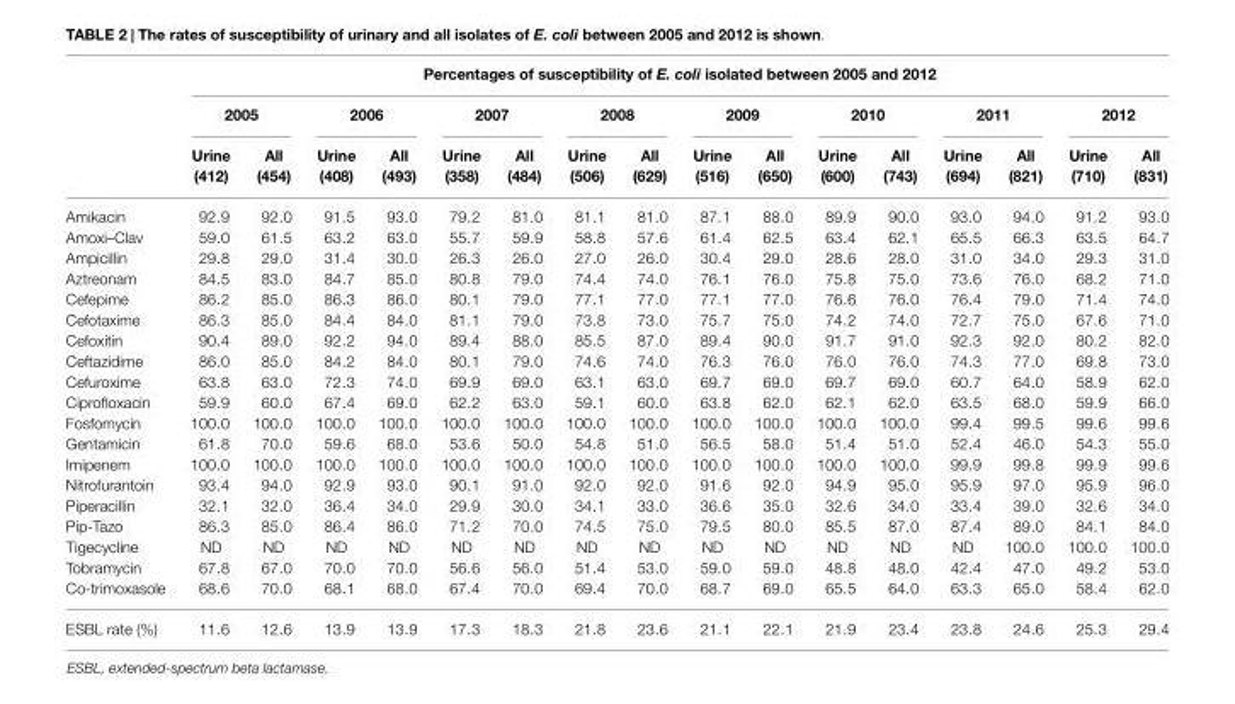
<table><thead><tr><td rowspan="3"></td><td colspan="16">Percentages of susceptibility of E. coli isolated between 2005 and 2012</td></tr><tr><td colspan="2">2005</td><td colspan="2">2006</td><td colspan="2">2007</td><td colspan="2">2008</td><td colspan="2">2009</td><td colspan="2">2010</td><td colspan="2">2011</td><td colspan="2">2012</td></tr><tr><td>Urine (412)</td><td>All (454)</td><td>Urine (408)</td><td>All (493)</td><td>Urine (358)</td><td>All (484)</td><td>Urine (506)</td><td>All (629)</td><td>Urine (516)</td><td>All (650)</td><td>Urine (600)</td><td>All (743)</td><td>Urine (694)</td><td>All (821)</td><td>Urine (710)</td><td>All (831)</td></tr></thead><tbody><tr><td>Amikacin</td><td>92.9</td><td>92.0</td><td>91.5</td><td>93.0</td><td>79.2</td><td>81.0</td><td>81.1</td><td>81.0</td><td>87.1</td><td>88.0</td><td>89.9</td><td>90.0</td><td>93.0</td><td>94.0</td><td>91.2</td><td>93.0</td></tr><tr><td>Amoxi–Clav</td><td>59.0</td><td>61.5</td><td>63.2</td><td>63.0</td><td>55.7</td><td>59.9</td><td>58.8</td><td>57.6</td><td>61.4</td><td>62.5</td><td>63.4</td><td>62.1</td><td>65.5</td><td>66.3</td><td>63.5</td><td>64.7</td></tr><tr><td>Ampicillin</td><td>29.8</td><td>29.0</td><td>31.4</td><td>30.0</td><td>26.3</td><td>26.0</td><td>27.0</td><td>26.0</td><td>30.4</td><td>29.0</td><td>28.6</td><td>28.0</td><td>31.0</td><td>34.0</td><td>29.3</td><td>31.0</td></tr><tr><td>Aztreonam</td><td>84.5</td><td>83.0</td><td>84.7</td><td>85.0</td><td>80.8</td><td>79.0</td><td>74.4</td><td>74.0</td><td>76.1</td><td>76.0</td><td>75.8</td><td>75.0</td><td>73.6</td><td>76.0</td><td>68.2</td><td>71.0</td></tr><tr><td>Cefepime</td><td>86.2</td><td>85.0</td><td>86.3</td><td>86.0</td><td>80.1</td><td>79.0</td><td>77.1</td><td>77.0</td><td>77.1</td><td>77.0</td><td>76.6</td><td>76.0</td><td>76.4</td><td>79.0</td><td>71.4</td><td>74.0</td></tr><tr><td>Cefotaxime</td><td>86.3</td><td>85.0</td><td>84.4</td><td>84.0</td><td>81.1</td><td>79.0</td><td>73.8</td><td>73.0</td><td>75.7</td><td>75.0</td><td>74.2</td><td>74.0</td><td>72.7</td><td>75.0</td><td>67.6</td><td>71.0</td></tr><tr><td>Cefoxitin</td><td>90.4</td><td>89.0</td><td>92.2</td><td>94.0</td><td>89.4</td><td>88.0</td><td>85.5</td><td>87.0</td><td>89.4</td><td>90.0</td><td>91.7</td><td>91.0</td><td>92.3</td><td>92.0</td><td>80.2</td><td>82.0</td></tr><tr><td>Ceftazidime</td><td>86.0</td><td>85.0</td><td>84.2</td><td>84.0</td><td>80.1</td><td>79.0</td><td>74.6</td><td>74.0</td><td>76.3</td><td>76.0</td><td>76.0</td><td>76.0</td><td>74.3</td><td>77.0</td><td>69.8</td><td>73.0</td></tr><tr><td>Cefuroxime</td><td>63.8</td><td>63.0</td><td>72.3</td><td>74.0</td><td>69.9</td><td>69.0</td><td>63.1</td><td>63.0</td><td>69.7</td><td>69.0</td><td>69.7</td><td>69.0</td><td>60.7</td><td>64.0</td><td>58.9</td><td>62.0</td></tr><tr><td>Ciprofloxacin</td><td>59.9</td><td>60.0</td><td>67.4</td><td>69.0</td><td>62.2</td><td>63.0</td><td>59.1</td><td>60.0</td><td>63.8</td><td>62.0</td><td>62.1</td><td>62.0</td><td>63.5</td><td>68.0</td><td>59.9</td><td>66.0</td></tr><tr><td>Fosfomycin</td><td>100.0</td><td>100.0</td><td>100.0</td><td>100.0</td><td>100.0</td><td>100.0</td><td>100.0</td><td>100.0</td><td>100.0</td><td>100.0</td><td>100.0</td><td>100.0</td><td>99.4</td><td>99.5</td><td>99.6</td><td>99.6</td></tr><tr><td>Gentamicin</td><td>61.8</td><td>70.0</td><td>59.6</td><td>68.0</td><td>53.6</td><td>50.0</td><td>54.8</td><td>51.0</td><td>56.5</td><td>58.0</td><td>51.4</td><td>51.0</td><td>52.4</td><td>46.0</td><td>54.3</td><td>55.0</td></tr><tr><td>Imipenem</td><td>100.0</td><td>100.0</td><td>100.0</td><td>100.0</td><td>100.0</td><td>100.0</td><td>100.0</td><td>100.0</td><td>100.0</td><td>100.0</td><td>100.0</td><td>100.0</td><td>99.9</td><td>99.8</td><td>99.9</td><td>99.6</td></tr><tr><td>Nitrofurantoin</td><td>93.4</td><td>94.0</td><td>92.9</td><td>93.0</td><td>90.1</td><td>91.0</td><td>92.0</td><td>92.0</td><td>91.6</td><td>92.0</td><td>94.9</td><td>95.0</td><td>95.9</td><td>97.0</td><td>95.9</td><td>96.0</td></tr><tr><td>Piperacillin</td><td>32.1</td><td>32.0</td><td>36.4</td><td>34.0</td><td>29.9</td><td>30.0</td><td>34.1</td><td>33.0</td><td>36.6</td><td>35.0</td><td>32.6</td><td>34.0</td><td>33.4</td><td>39.0</td><td>32.6</td><td>34.0</td></tr><tr><td>Pip-Tazo</td><td>86.3</td><td>85.0</td><td>86.4</td><td>86.0</td><td>71.2</td><td>70.0</td><td>74.5</td><td>75.0</td><td>79.5</td><td>80.0</td><td>85.5</td><td>87.0</td><td>87.4</td><td>89.0</td><td>84.1</td><td>84.0</td></tr><tr><td>Tigecycline</td><td>ND</td><td>ND</td><td>ND</td><td>ND</td><td>ND</td><td>ND</td><td>ND</td><td>ND</td><td>ND</td><td>ND</td><td>ND</td><td>ND</td><td>ND</td><td>100.0</td><td>100.0</td><td>100.0</td></tr><tr><td>Tobramycin</td><td>67.8</td><td>67.0</td><td>70.0</td><td>70.0</td><td>56.6</td><td>56.0</td><td>51.4</td><td>53.0</td><td>59.0</td><td>59.0</td><td>48.8</td><td>48.0</td><td>42.4</td><td>47.0</td><td>49.2</td><td>53.0</td></tr><tr><td>Co-trimoxasole</td><td>68.6</td><td>70.0</td><td>68.1</td><td>68.0</td><td>67.4</td><td>70.0</td><td>69.4</td><td>70.0</td><td>68.7</td><td>69.0</td><td>65.5</td><td>64.0</td><td>63.3</td><td>65.0</td><td>58.4</td><td>62.0</td></tr><tr><td>ESBL rate (%)</td><td>11.6</td><td>12.6</td><td>13.9</td><td>13.9</td><td>17.3</td><td>18.3</td><td>21.8</td><td>23.6</td><td>21.1</td><td>22.1</td><td>21.9</td><td>23.4</td><td>23.8</td><td>24.6</td><td>25.3</td><td>29.4</td></tr></tbody></table>